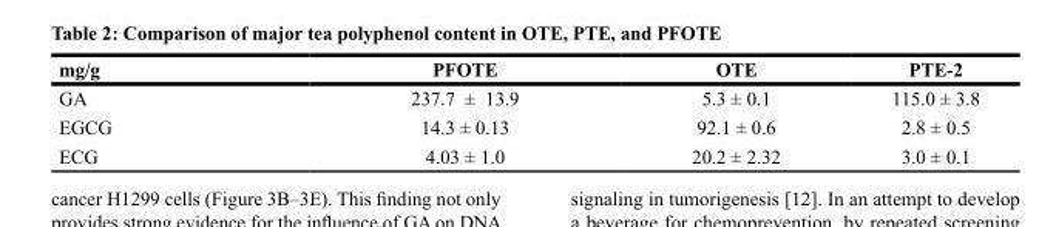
<table><thead><tr><td>mg/g</td><td>PFOTE</td><td>OTE</td><td>PTE-2</td></tr></thead><tbody><tr><td>GA</td><td>237.7 ± 13.9</td><td>5.3 ± 0.1</td><td>115.0 ± 3.8</td></tr><tr><td>EGCG</td><td>14.3 ± 0.13</td><td>92.1 ± 0.6</td><td>2.8 ± 0.5</td></tr><tr><td>ECG</td><td>4.03 ± 1.0</td><td>20.2 ± 2.32</td><td>3.0 ± 0.1</td></tr></tbody></table>